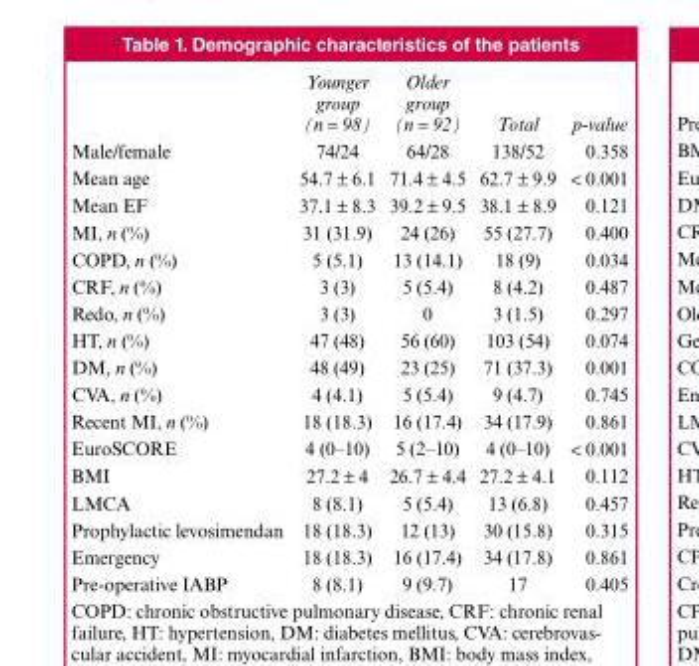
<table><thead><tr><td></td><td>Younger group (n = 98)</td><td>Older group (n = 92)</td><td>Total</td><td>p-value</td></tr></thead><tbody><tr><td>Male/female</td><td>74/24</td><td>64/28</td><td>138/52</td><td>0.358</td></tr><tr><td>Mean age</td><td>54.7 ± 6.1</td><td>71.4 ± 4.5</td><td>62.7 ± 9.9</td><td>&lt; 0.001</td></tr><tr><td>Mean EF</td><td>37.1 ± 8.3</td><td>39.2 ± 9.5</td><td>38.1 ± 8.9</td><td>0.121</td></tr><tr><td>MI, n (%)</td><td>31 (31.9)</td><td>24 (26)</td><td>55 (27.7)</td><td>0.400</td></tr><tr><td>COPD, n (%)</td><td>5 (5.1)</td><td>13 (14.1)</td><td>18 (9)</td><td>0.034</td></tr><tr><td>CRF, n (%)</td><td>3 (3)</td><td>5 (5.4)</td><td>8 (4.2)</td><td>0.487</td></tr><tr><td>Redo, n (%)</td><td>3 (3)</td><td>0</td><td>3 (1.5)</td><td>0.297</td></tr><tr><td>HT, n (%)</td><td>47 (48)</td><td>56 (60)</td><td>103 (54)</td><td>0.074</td></tr><tr><td>DM, n (%)</td><td>48 (49)</td><td>23 (25)</td><td>71 (37.3)</td><td>0.001</td></tr><tr><td>CVA, n (%)</td><td>4 (4.1)</td><td>5 (5.4)</td><td>9 (4.7)</td><td>0.745</td></tr><tr><td>Recent MI, n (%)</td><td>18 (18.3)</td><td>16 (17.4)</td><td>34 (17.9)</td><td>0.861</td></tr><tr><td>EuroSCORE</td><td>4 (0–10)</td><td>5 (2–10)</td><td>4 (0–10)</td><td>&lt; 0.001</td></tr><tr><td>BMI</td><td>27.2 ± 4</td><td>26.7 ± 4.4</td><td>27.2 ± 4.1</td><td>0.112</td></tr><tr><td>LMCA</td><td>8 (8.1)</td><td>5 (5.4)</td><td>13 (6.8)</td><td>0.457</td></tr><tr><td>Prophylactic levosimendan</td><td>18 (18.3)</td><td>12 (13)</td><td>30 (15.8)</td><td>0.315</td></tr><tr><td>Emergency</td><td>18 (18.3)</td><td>16 (17.4)</td><td>34 (17.8)</td><td>0.861</td></tr><tr><td>Pre-operative IABP</td><td>8 (8.1)</td><td>9 (9.7)</td><td>17</td><td>0.405</td></tr></tbody></table>